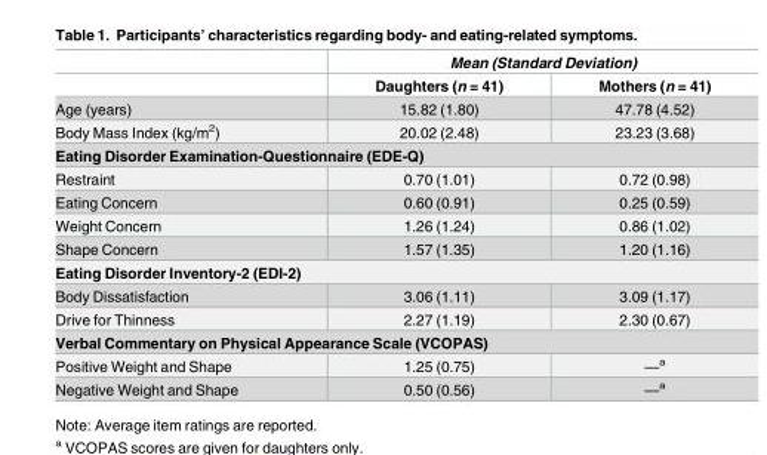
<table><thead><tr><td rowspan="2"></td><td colspan="2">Mean (Standard Deviation)</td></tr><tr><td>Daughters (n = 41)</td><td>Mothers (n = 41)</td></tr></thead><tbody><tr><td>Age (years)</td><td>15.82 (1.80)</td><td>47.78 (4.52)</td></tr><tr><td>Body Mass Index (kg/m<sup>2</sup>)</td><td>20.02 (2.48)</td><td>23.23 (3.68)</td></tr><tr><td colspan="3">Eating Disorder Examination-Questionnaire (EDE-Q)</td></tr><tr><td>Restraint</td><td>0.70 (1.01)</td><td>0.72 (0.98)</td></tr><tr><td>Eating Concern</td><td>0.60 (0.91)</td><td>0.25 (0.59)</td></tr><tr><td>Weight Concern</td><td>1.26 (1.24)</td><td>0.86 (1.02)</td></tr><tr><td>Shape Concern</td><td>1.57 (1.35)</td><td>1.20 (1.16)</td></tr><tr><td colspan="3">Eating Disorder Inventory-2 (EDI-2)</td></tr><tr><td>Body Dissatisfaction</td><td>3.06 (1.11)</td><td>3.09 (1.17)</td></tr><tr><td>Drive for Thinness</td><td>2.27 (1.19)</td><td>2.30 (0.67)</td></tr><tr><td colspan="3">Verbal Commentary on Physical Appearance Scale (VCOPAS)</td></tr><tr><td>Positive Weight and Shape</td><td>1.25 (0.75)</td><td>—<sup>a</sup></td></tr><tr><td>Negative Weight and Shape</td><td>0.50 (0.56)</td><td>—<sup>a</sup></td></tr></tbody></table>